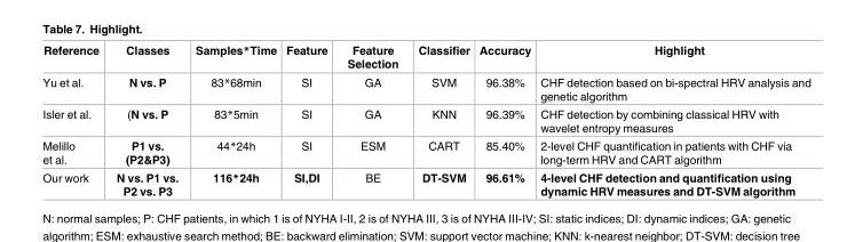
<table><thead><tr><td>Reference</td><td>Classes</td><td>Samples*Time</td><td>Feature</td><td>Feature Selection</td><td>Classifier</td><td>Accuracy</td><td>Highlight</td></tr></thead><tbody><tr><td>Yu et al.</td><td>N vs. P</td><td>83*68min</td><td>SI</td><td>GA</td><td>SVM</td><td>96.38%</td><td>CHF detection based on bi-spectral HRV analysis and genetic algorithm</td></tr><tr><td>Isler et al.</td><td>(N vs. P</td><td>83*5min</td><td>SI</td><td>GA</td><td>KNN</td><td>96.39%</td><td>CHF detection by combining classical HRV with wavelet entropy measures</td></tr><tr><td>Melillo et al.</td><td>P1 vs. (P2&amp;P3)</td><td>44*24h</td><td>SI</td><td>ESM</td><td>CART</td><td>85.40%</td><td>2-level CHF quantification in patients with CHF via long-term HRV and CART algorithm</td></tr><tr><td>Our work</td><td>N vs. P1 vs. P2 vs. P3</td><td>116*24h</td><td>SI,DI</td><td>BE</td><td>DT-SVM</td><td>96.61%</td><td>4-level CHF detection and quantification using dynamic HRV measures and DT-SVM algorithm</td></tr></tbody></table>